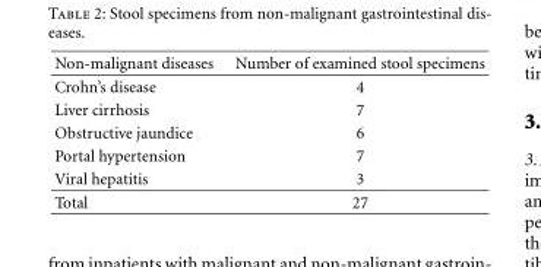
<table><thead><tr><td>Non-malignant diseases</td><td>Number of examined stool specimens</td></tr></thead><tbody><tr><td>Crohn’s disease</td><td>4</td></tr><tr><td>Liver cirrhosis</td><td>7</td></tr><tr><td>Obstructive jaundice</td><td>6</td></tr><tr><td>Portal hypertension</td><td>7</td></tr><tr><td>Viral hepatitis</td><td>3</td></tr><tr><td>Total</td><td>27</td></tr></tbody></table>